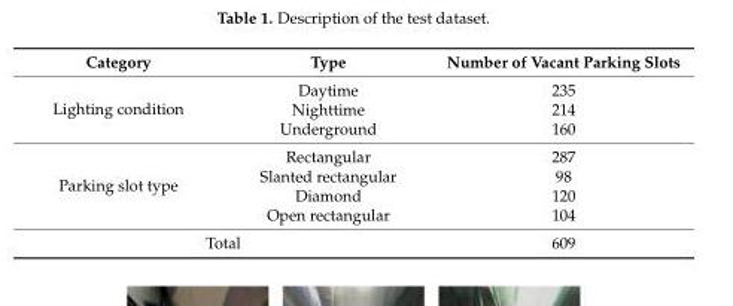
<table><thead><tr><td>Category</td><td>Type</td><td>Number of Vacant Parking Slots</td></tr></thead><tbody><tr><td rowspan="3">Lighting condition</td><td>Daytime</td><td>235</td></tr><tr><td>Nighttime</td><td>214</td></tr><tr><td>Underground</td><td>160</td></tr><tr><td rowspan="4">Parking slot type</td><td>Rectangular</td><td>287</td></tr><tr><td>Slanted rectangular</td><td>98</td></tr><tr><td>Diamond</td><td>120</td></tr><tr><td>Open rectangular</td><td>104</td></tr><tr><td colspan="2">Total</td><td>609</td></tr></tbody></table>